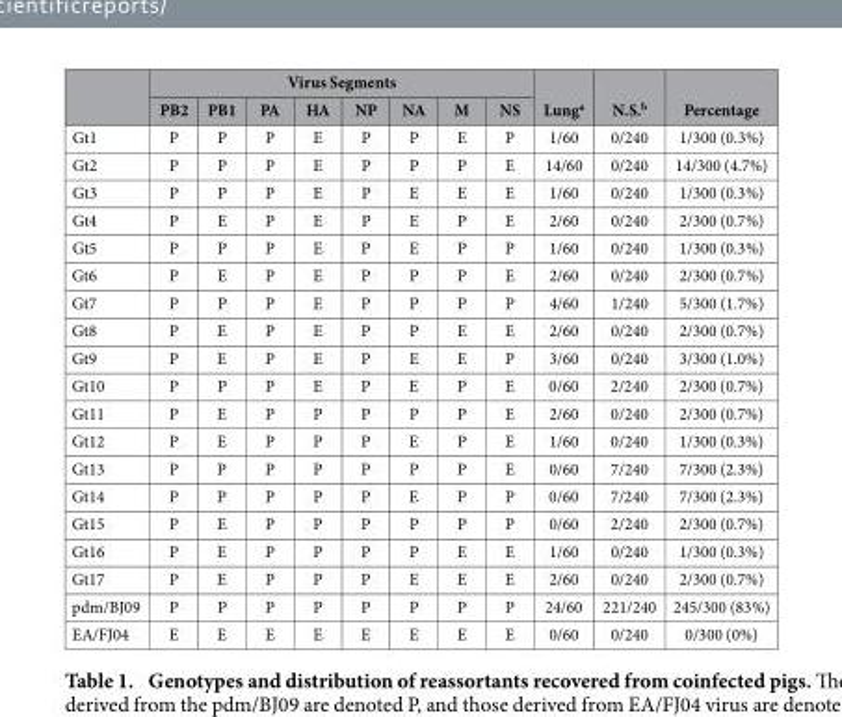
<table><thead><tr><td rowspan="2"></td><td colspan="8">Virus Segments</td><td rowspan="2">Lung<sup>a</sup></td><td rowspan="2">N.S.<sup>b</sup></td><td rowspan="2">Percentage</td></tr><tr><td>PB2</td><td>PB1</td><td>PA</td><td>HA</td><td>NP</td><td>NA</td><td>M</td><td>NS</td></tr></thead><tbody><tr><td>Gt1</td><td>P</td><td>P</td><td>P</td><td>E</td><td>P</td><td>P</td><td>E</td><td>P</td><td>1/60</td><td>0/240</td><td>1/300 (0.3%)</td></tr><tr><td>Gt2</td><td>P</td><td>P</td><td>P</td><td>E</td><td>P</td><td>P</td><td>P</td><td>E</td><td>14/60</td><td>0/240</td><td>14/300 (4.7%)</td></tr><tr><td>Gt3</td><td>P</td><td>P</td><td>P</td><td>E</td><td>P</td><td>E</td><td>E</td><td>E</td><td>1/60</td><td>0/240</td><td>1/300 (0.3%)</td></tr><tr><td>Gt4</td><td>P</td><td>E</td><td>P</td><td>E</td><td>P</td><td>E</td><td>P</td><td>E</td><td>2/60</td><td>0/240</td><td>2/300 (0.7%)</td></tr><tr><td>Gt5</td><td>P</td><td>P</td><td>P</td><td>E</td><td>P</td><td>E</td><td>P</td><td>P</td><td>1/60</td><td>0/240</td><td>1/300 (0.3%)</td></tr><tr><td>Gt6</td><td>P</td><td>E</td><td>P</td><td>E</td><td>P</td><td>P</td><td>P</td><td>E</td><td>2/60</td><td>0/240</td><td>2/300 (0.7%)</td></tr><tr><td>Gt7</td><td>P</td><td>P</td><td>P</td><td>E</td><td>P</td><td>P</td><td>P</td><td>P</td><td>4/60</td><td>1/240</td><td>5/300 (1.7%)</td></tr><tr><td>Gt8</td><td>P</td><td>E</td><td>P</td><td>E</td><td>P</td><td>P</td><td>E</td><td>E</td><td>2/60</td><td>0/240</td><td>2/300 (0.7%)</td></tr><tr><td>Gt9</td><td>P</td><td>E</td><td>P</td><td>E</td><td>P</td><td>E</td><td>E</td><td>P</td><td>3/60</td><td>0/240</td><td>3/300 (1.0%)</td></tr><tr><td>Gt10</td><td>P</td><td>P</td><td>P</td><td>E</td><td>P</td><td>E</td><td>P</td><td>E</td><td>0/60</td><td>2/240</td><td>2/300 (0.7%)</td></tr><tr><td>Gt11</td><td>P</td><td>E</td><td>P</td><td>P</td><td>P</td><td>P</td><td>P</td><td>E</td><td>2/60</td><td>0/240</td><td>2/300 (0.7%)</td></tr><tr><td>Gt12</td><td>P</td><td>E</td><td>P</td><td>P</td><td>P</td><td>E</td><td>P</td><td>E</td><td>1/60</td><td>0/240</td><td>1/300 (0.3%)</td></tr><tr><td>Gt13</td><td>P</td><td>P</td><td>P</td><td>P</td><td>P</td><td>P</td><td>P</td><td>E</td><td>0/60</td><td>7/240</td><td>7/300 (2.3%)</td></tr><tr><td>Gt14</td><td>P</td><td>P</td><td>P</td><td>P</td><td>P</td><td>E</td><td>P</td><td>P</td><td>0/60</td><td>7/240</td><td>7/300 (2.3%)</td></tr><tr><td>Gt15</td><td>P</td><td>E</td><td>P</td><td>P</td><td>P</td><td>P</td><td>P</td><td>P</td><td>0/60</td><td>2/240</td><td>2/300 (0.7%)</td></tr><tr><td>Gt16</td><td>P</td><td>E</td><td>P</td><td>P</td><td>P</td><td>P</td><td>E</td><td>E</td><td>1/60</td><td>0/240</td><td>1/300 (0.3%)</td></tr><tr><td>Gt17</td><td>P</td><td>E</td><td>P</td><td>P</td><td>P</td><td>E</td><td>E</td><td>E</td><td>2/60</td><td>0/240</td><td>2/300 (0.7%)</td></tr><tr><td>pdm/BJ09</td><td>P</td><td>P</td><td>P</td><td>P</td><td>P</td><td>P</td><td>P</td><td>P</td><td>24/60</td><td>221/240</td><td>245/300 (83%)</td></tr><tr><td>EA/FJ04</td><td>E</td><td>E</td><td>E</td><td>E</td><td>E</td><td>E</td><td>E</td><td>E</td><td>0/60</td><td>0/240</td><td>0/300 (0%)</td></tr></tbody></table>